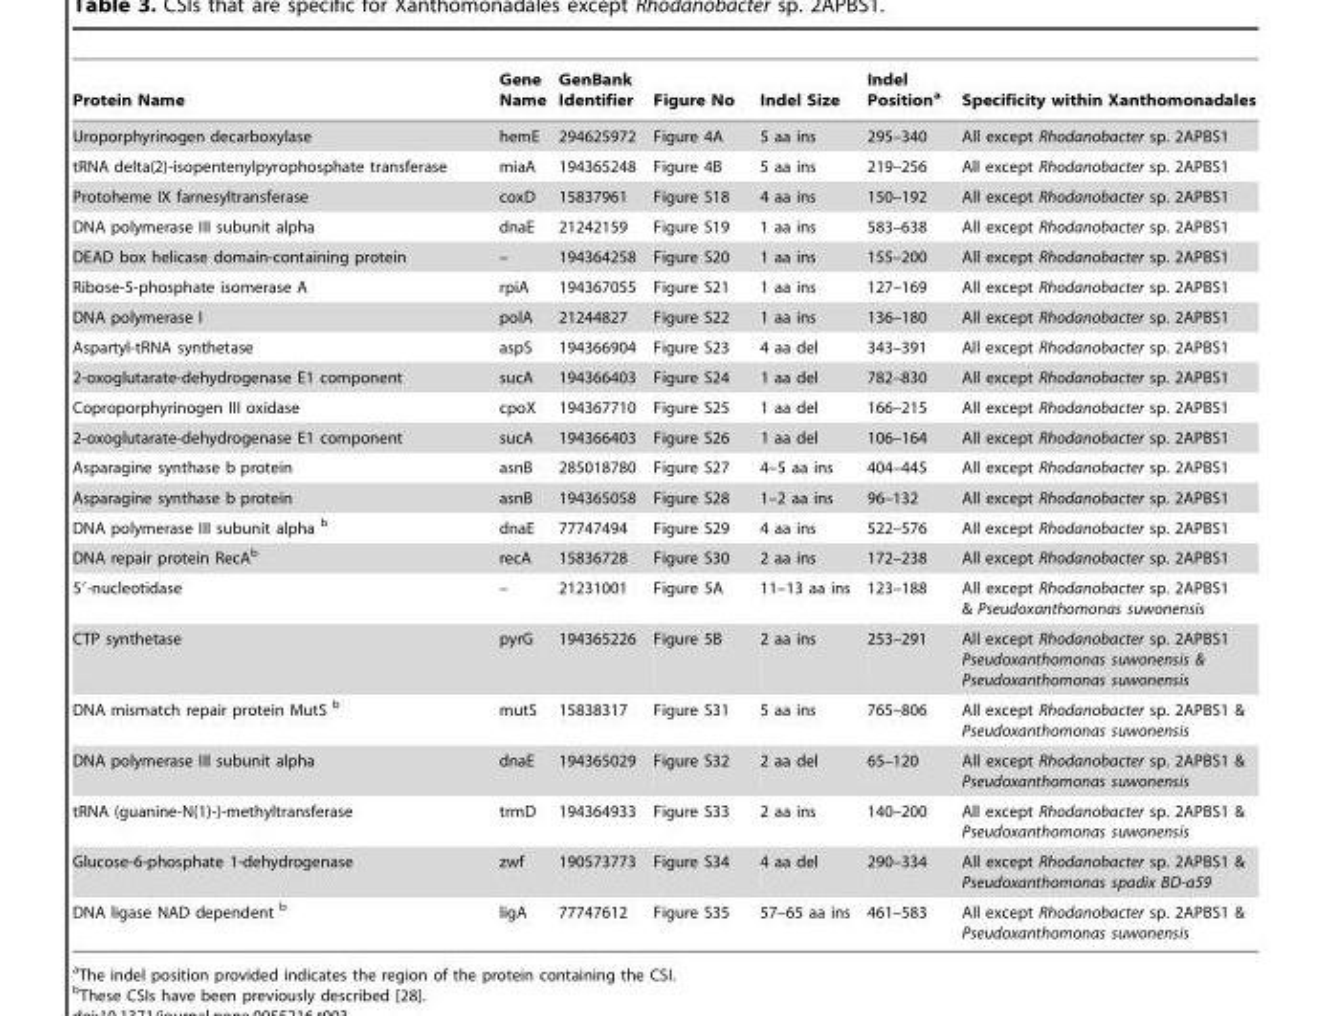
<table><thead><tr><td>Protein Name</td><td>Gene Name</td><td>GenBank Identifier</td><td>Figure No</td><td>Indel Size</td><td>Indel Position<sup>a</sup></td><td>Specificity within Xanthomonadales</td></tr></thead><tbody><tr><td>Uroporphyrinogen decarboxylase</td><td>hemE</td><td>294625972</td><td>Figure 4A</td><td>5 aa ins</td><td>295–340</td><td>All except Rhodanobacter sp. 2APBS1</td></tr><tr><td>tRNA delta(2)-isopentenylpyrophosphate transferase</td><td>miaA</td><td>194365248</td><td>Figure 4B</td><td>5 aa ins</td><td>219–256</td><td>All except Rhodanobacter sp. 2APBS1</td></tr><tr><td>Protoheme IX farnesyltransferase</td><td>coxD</td><td>15837961</td><td>Figure S18</td><td>4 aa ins</td><td>150–192</td><td>All except Rhodanobacter sp. 2APBS1</td></tr><tr><td>DNA polymerase III subunit alpha</td><td>dnaE</td><td>21242159</td><td>Figure S19</td><td>1 aa ins</td><td>583–638</td><td>All except Rhodanobacter sp. 2APBS1</td></tr><tr><td>DEAD box helicase domain-containing protein</td><td>–</td><td>194364258</td><td>Figure S20</td><td>1 aa ins</td><td>155–200</td><td>All except Rhodanobacter sp. 2APBS1</td></tr><tr><td>Ribose-5-phosphate isomerase A</td><td>rpiA</td><td>194367055</td><td>Figure S21</td><td>1 aa ins</td><td>127–169</td><td>All except Rhodanobacter sp. 2APBS1</td></tr><tr><td>DNA polymerase I</td><td>polA</td><td>21244827</td><td>Figure S22</td><td>1 aa ins</td><td>136–180</td><td>All except Rhodanobacter sp. 2APBS1</td></tr><tr><td>Aspartyl-tRNA synthetase</td><td>aspS</td><td>194366904</td><td>Figure S23</td><td>4 aa del</td><td>343–391</td><td>All except Rhodanobacter sp. 2APBS1</td></tr><tr><td>2-oxoglutarate-dehydrogenase E1 component</td><td>sucA</td><td>194366403</td><td>Figure S24</td><td>1 aa del</td><td>782–830</td><td>All except Rhodanobacter sp. 2APBS1</td></tr><tr><td>Coproporphyrinogen III oxidase</td><td>cpoX</td><td>194367710</td><td>Figure S25</td><td>1 aa del</td><td>166–215</td><td>All except Rhodanobacter sp. 2APBS1</td></tr><tr><td>2-oxoglutarate-dehydrogenase E1 component</td><td>sucA</td><td>194366403</td><td>Figure S26</td><td>1 aa del</td><td>106–164</td><td>All except Rhodanobacter sp. 2APBS1</td></tr><tr><td>Asparagine synthase b protein</td><td>asnB</td><td>285018780</td><td>Figure S27</td><td>4–5 aa ins</td><td>404–445</td><td>All except Rhodanobacter sp. 2APBS1</td></tr><tr><td>Asparagine synthase b protein</td><td>asnB</td><td>194365058</td><td>Figure S28</td><td>1–2 aa ins</td><td>96–132</td><td>All except Rhodanobacter sp. 2APBS1</td></tr><tr><td>DNA polymerase III subunit alpha b</td><td>dnaE</td><td>77747494</td><td>Figure S29</td><td>4 aa ins</td><td>522–576</td><td>All except Rhodanobacter sp. 2APBS1</td></tr><tr><td>DNA repair protein RecA<sup>b</sup></td><td>recA</td><td>15836728</td><td>Figure S30</td><td>2 aa ins</td><td>172–238</td><td>All except Rhodanobacter sp. 2APBS1</td></tr><tr><td>5′-nucleotidase</td><td>–</td><td>21231001</td><td>Figure 5A</td><td>11–13 aa ins</td><td>123–188</td><td>All except Rhodanobacter sp. 2APBS1 &amp; Pseudoxanthomonas suwonensis</td></tr><tr><td>CTP synthetase</td><td>pyrG</td><td>194365226</td><td>Figure 5B</td><td>2 aa ins</td><td>253–291</td><td>All except Rhodanobacter sp. 2APBS1 Pseudoxanthomonas suwonensis &amp; Pseudoxanthomonas suwonensis</td></tr><tr><td>DNA mismatch repair protein MutS b</td><td>mutS</td><td>15838317</td><td>Figure S31</td><td>5 aa ins</td><td>765–806</td><td>All except Rhodanobacter sp. 2APBS1 &amp; Pseudoxanthomonas suwonensis</td></tr><tr><td>DNA polymerase III subunit alpha</td><td>dnaE</td><td>194365029</td><td>Figure S32</td><td>2 aa del</td><td>65–120</td><td>All except Rhodanobacter sp. 2APBS1 &amp; Pseudoxanthomonas suwonensis</td></tr><tr><td>tRNA (guanine-N(1)-)-methyltransferase</td><td>trmD</td><td>194364933</td><td>Figure S33</td><td>2 aa ins</td><td>140–200</td><td>All except Rhodanobacter sp. 2APBS1 &amp; Pseudoxanthomonas suwonensis</td></tr><tr><td>Glucose-6-phosphate 1-dehydrogenase</td><td>zwf</td><td>190573773</td><td>Figure S34</td><td>4 aa del</td><td>290–334</td><td>All except Rhodanobacter sp. 2APBS1 &amp; Pseudoxanthomonas spadix BD-a59</td></tr><tr><td>DNA ligase NAD dependent b</td><td>ligA</td><td>77747612</td><td>Figure S35</td><td>57–65 aa ins</td><td>461–583</td><td>All except Rhodanobacter sp. 2APBS1 &amp; Pseudoxanthomonas suwonensis</td></tr></tbody></table>